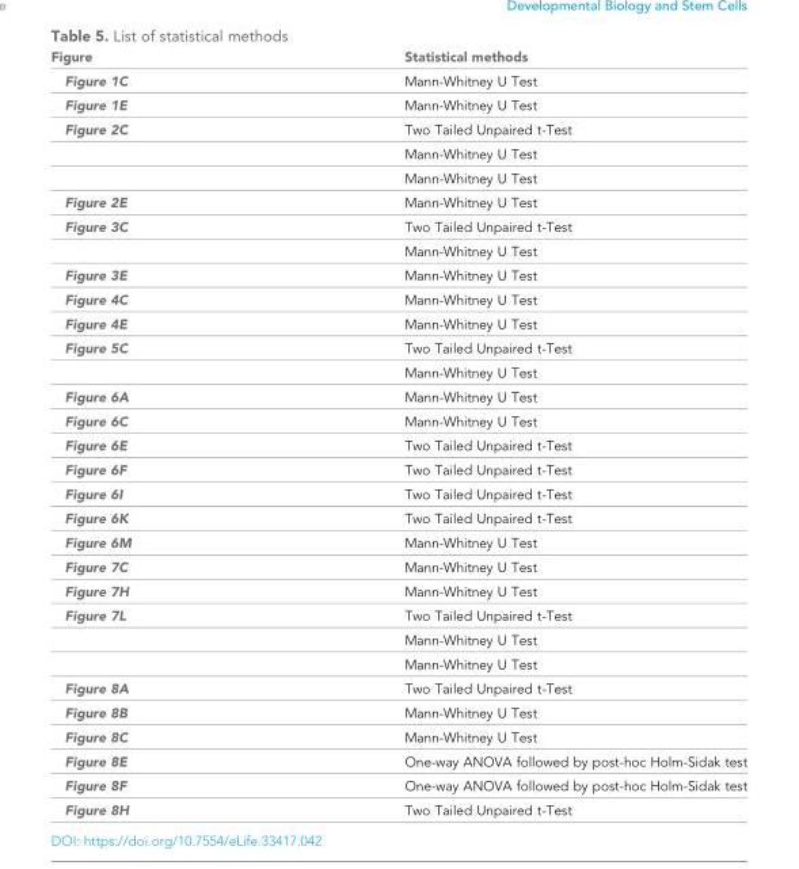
<table><thead><tr><td>Figure</td><td>Statistical methods</td></tr></thead><tbody><tr><td>Figure 1C</td><td>Mann-Whitney U Test</td></tr><tr><td>Figure 1E</td><td>Mann-Whitney U Test</td></tr><tr><td rowspan="3">Figure 2C</td><td>Two Tailed Unpaired t-Test</td></tr><tr><td>Mann-Whitney U Test</td></tr><tr><td>Mann-Whitney U Test</td></tr><tr><td>Figure 2E</td><td>Mann-Whitney U Test</td></tr><tr><td rowspan="2">Figure 3C</td><td>Two Tailed Unpaired t-Test</td></tr><tr><td>Mann-Whitney U Test</td></tr><tr><td>Figure 3E</td><td>Mann-Whitney U Test</td></tr><tr><td>Figure 4C</td><td>Mann-Whitney U Test</td></tr><tr><td>Figure 4E</td><td>Mann-Whitney U Test</td></tr><tr><td rowspan="2">Figure 5C</td><td>Two Tailed Unpaired t-Test</td></tr><tr><td>Mann-Whitney U Test</td></tr><tr><td>Figure 6A</td><td>Mann-Whitney U Test</td></tr><tr><td>Figure 6C</td><td>Mann-Whitney U Test</td></tr><tr><td>Figure 6E</td><td>Two Tailed Unpaired t-Test</td></tr><tr><td>Figure 6F</td><td>Two Tailed Unpaired t-Test</td></tr><tr><td>Figure 6I</td><td>Two Tailed Unpaired t-Test</td></tr><tr><td>Figure 6K</td><td>Two Tailed Unpaired t-Test</td></tr><tr><td>Figure 6M</td><td>Mann-Whitney U Test</td></tr><tr><td>Figure 7C</td><td>Mann-Whitney U Test</td></tr><tr><td>Figure 7H</td><td>Mann-Whitney U Test</td></tr><tr><td rowspan="3">Figure 7L</td><td>Two Tailed Unpaired t-Test</td></tr><tr><td>Mann-Whitney U Test</td></tr><tr><td>Mann-Whitney U Test</td></tr><tr><td>Figure 8A</td><td>Two Tailed Unpaired t-Test</td></tr><tr><td>Figure 8B</td><td>Mann-Whitney U Test</td></tr><tr><td>Figure 8C</td><td>Mann-Whitney U Test</td></tr><tr><td>Figure 8E</td><td>One-way ANOVA followed by post-hoc Holm-Sidak test</td></tr><tr><td>Figure 8F</td><td>One-way ANOVA followed by post-hoc Holm-Sidak test</td></tr><tr><td>Figure 8H</td><td>Two Tailed Unpaired t-Test</td></tr></tbody></table>